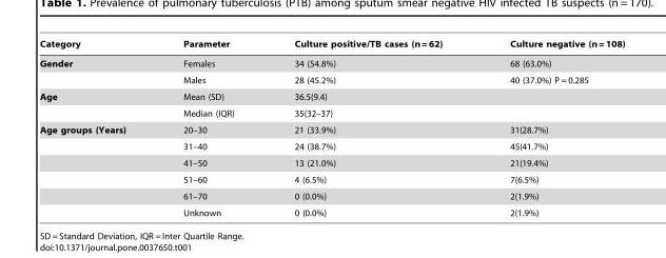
<table><thead><tr><td>Category</td><td>Parameter</td><td>Culture positive/TB cases (n = 62)</td><td>Culture negative (n = 108)</td></tr></thead><tbody><tr><td rowspan="2">Gender</td><td>Females</td><td>34 (54.8%)</td><td>68 (63.0%)</td></tr><tr><td>Males</td><td>28 (45.2%)</td><td>40 (37.0%) P = 0.285</td></tr><tr><td rowspan="2">Age</td><td>Mean (SD)</td><td>36.5(9.4)</td><td></td></tr><tr><td>Median (IQR)</td><td>35(32–37)</td><td></td></tr><tr><td rowspan="6">Age groups (Years)</td><td>20–30</td><td>21 (33.9%)</td><td>31(28.7%)</td></tr><tr><td>31–40</td><td>24 (38.7%)</td><td>45(41.7%)</td></tr><tr><td>41–50</td><td>13 (21.0%)</td><td>21(19.4%)</td></tr><tr><td>51–60</td><td>4 (6.5%)</td><td>7(6.5%)</td></tr><tr><td>61–70</td><td>0 (0.0%)</td><td>2(1.9%)</td></tr><tr><td>Unknown</td><td>0 (0.0%)</td><td>2(1.9%)</td></tr></tbody></table>